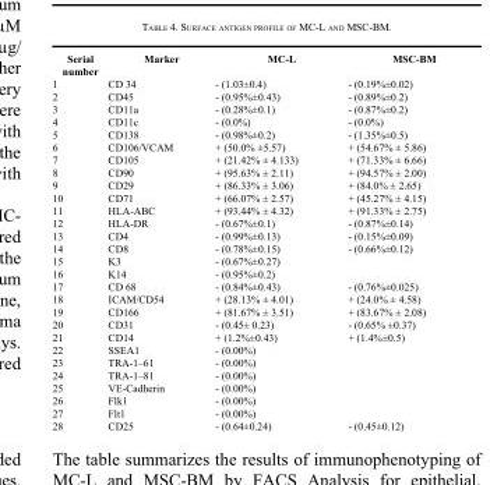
<table><thead><tr><td>Serial number</td><td>Marker</td><td>MC-L</td><td>MSC-BM</td></tr></thead><tbody><tr><td>1</td><td>CD 34</td><td>- (1.03±0.4)</td><td>- (0.19%±0.02)</td></tr><tr><td>2</td><td>CD45</td><td>- (0.95%±0.43)</td><td>- (0.89%±0.2)</td></tr><tr><td>3</td><td>CD11a</td><td>- (0.28%±0.1)</td><td>- (0.87%±0.2)</td></tr><tr><td>4</td><td>CD11c</td><td>- (0.0%)</td><td>- (0.0%)</td></tr><tr><td>5</td><td>CD138</td><td>- (0.98%±0.2)</td><td>- (1.35%±0.5)</td></tr><tr><td>6</td><td>CD106/VCAM</td><td>+ (50.0% ±5.57)</td><td>+ (54.67% ± 5.86)</td></tr><tr><td>7</td><td>CD105</td><td>+ (21.42% ± 4.133)</td><td>+ (71.33% ± 6.66)</td></tr><tr><td>8</td><td>CD90</td><td>+ (95.63% ± 2.11)</td><td>+ (94.57% ± 2.00)</td></tr><tr><td>9</td><td>CD29</td><td>+ (86.33% ± 3.06)</td><td>+ (84.0% ± 2.65)</td></tr><tr><td>10</td><td>CD71</td><td>+ (66.07% ± 2.57)</td><td>+ (45.27% ± 4.15)</td></tr><tr><td>11</td><td>HLA-ABC</td><td>+ (93.44% ± 4.32)</td><td>+ (91.33% ± 2.75)</td></tr><tr><td>12</td><td>HLA-DR</td><td>- (0.67%±0.1)</td><td>- (0.87%±0.14)</td></tr><tr><td>13</td><td>CD4</td><td>- (0.99%±0.13)</td><td>- (0.15%±0.09)</td></tr><tr><td>14</td><td>CD8</td><td>- (0.78%±0.15)</td><td>- (0.66%±0.12)</td></tr><tr><td>15</td><td>K3</td><td>- (0.67%±0.27)</td><td></td></tr><tr><td>16</td><td>K14</td><td>- (0.95%±0.2)</td><td></td></tr><tr><td>17</td><td>CD 68</td><td>- (0.84%±0.43)</td><td>- (0.76%±0.025)</td></tr><tr><td>18</td><td>ICAM/CD54</td><td>+ (28.13% ± 4.01)</td><td>+ (24.0% ± 4.58)</td></tr><tr><td>19</td><td>CD166</td><td>+ (81.67% ± 3.51)</td><td>+ (83.67% ± 2.08)</td></tr><tr><td>20</td><td>CD31</td><td>- (0.45± 0.23)</td><td>- (0.65% ±0.37)</td></tr><tr><td>21</td><td>CD14</td><td>+ (1.2%±0.43)</td><td>+ (1.4%±0.5)</td></tr><tr><td>22</td><td>SSEA1</td><td>- (0.00%)</td><td></td></tr><tr><td>23</td><td>TRA-1–61</td><td>- (0.00%)</td><td></td></tr><tr><td>24</td><td>TRA-1–81</td><td>- (0.00%)</td><td></td></tr><tr><td>25</td><td>VE-Cadherin</td><td>- (0.00%)</td><td></td></tr><tr><td>26</td><td>Flk1</td><td>- (0.00%)</td><td></td></tr><tr><td>27</td><td>Flt1</td><td>- (0.00%)</td><td></td></tr><tr><td>28</td><td>CD25</td><td>- (0.64±0.24)</td><td>- (0.45±0.12)</td></tr></tbody></table>